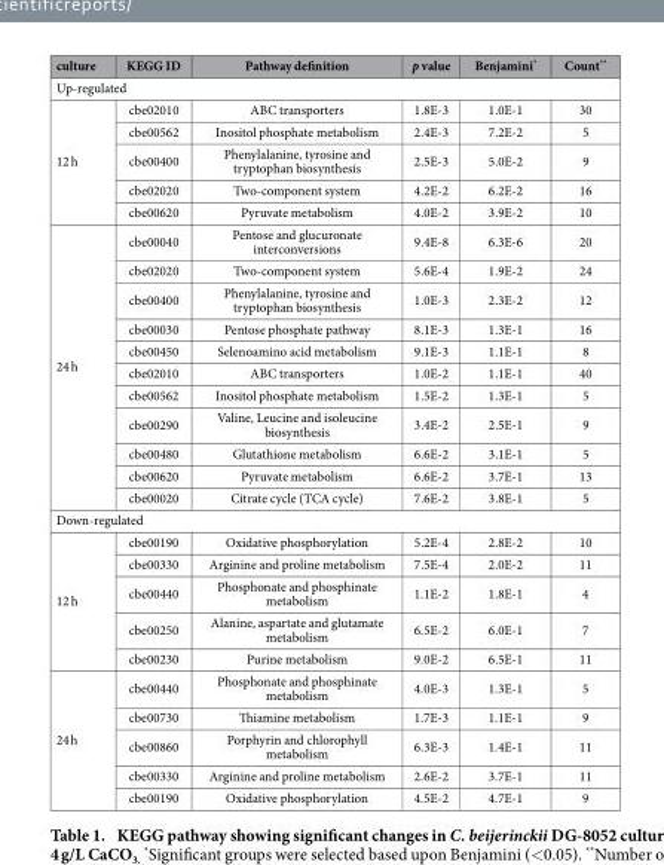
<table><thead><tr><td>culture</td><td>KEGG ID</td><td>Pathway definition</td><td>p value</td><td>Benjamini*</td><td>Count**</td></tr></thead><tbody><tr><td colspan="6">Up-regulated</td></tr><tr><td rowspan="5">12 h</td><td>cbe02010</td><td>ABC transporters</td><td>1.8E-3</td><td>1.0E-1</td><td>30</td></tr><tr><td>cbe00562</td><td>Inositol phosphate metabolism</td><td>2.4E-3</td><td>7.2E-2</td><td>5</td></tr><tr><td>cbe00400</td><td>Phenylalanine, tyrosine and tryptophan biosynthesis</td><td>2.5E-3</td><td>5.0E-2</td><td>9</td></tr><tr><td>cbe02020</td><td>Two-component system</td><td>4.2E-2</td><td>6.2E-2</td><td>16</td></tr><tr><td>cbe00620</td><td>Pyruvate metabolism</td><td>4.0E-2</td><td>3.9E-2</td><td>10</td></tr><tr><td rowspan="11">24 h</td><td>cbe00040</td><td>Pentose and glucuronate interconversions</td><td>9.4E-8</td><td>6.3E-6</td><td>20</td></tr><tr><td>cbe02020</td><td>Two-component system</td><td>5.6E-4</td><td>1.9E-2</td><td>24</td></tr><tr><td>cbe00400</td><td>Phenylalanine, tyrosine and tryptophan biosynthesis</td><td>1.0E-3</td><td>2.3E-2</td><td>12</td></tr><tr><td>cbe00030</td><td>Pentose phosphate pathway</td><td>8.1E-3</td><td>1.3E-1</td><td>16</td></tr><tr><td>cbe00450</td><td>Selenoamino acid metabolism</td><td>9.1E-3</td><td>1.1E-1</td><td>8</td></tr><tr><td>cbe02010</td><td>ABC transporters</td><td>1.0E-2</td><td>1.1E-1</td><td>40</td></tr><tr><td>cbe00562</td><td>Inositol phosphate metabolism</td><td>1.5E-2</td><td>1.3E-1</td><td>5</td></tr><tr><td>cbe00290</td><td>Valine, Leucine and isoleucine biosynthesis</td><td>3.4E-2</td><td>2.5E-1</td><td>9</td></tr><tr><td>cbe00480</td><td>Glutathione metabolism</td><td>6.6E-2</td><td>3.1E-1</td><td>5</td></tr><tr><td>cbe00620</td><td>Pyruvate metabolism</td><td>6.6E-2</td><td>3.7E-1</td><td>13</td></tr><tr><td>cbe00020</td><td>Citrate cycle (TCA cycle)</td><td>7.6E-2</td><td>3.8E-1</td><td>5</td></tr><tr><td colspan="6">Down-regulated</td></tr><tr><td rowspan="5">12 h</td><td>cbe00190</td><td>Oxidative phosphorylation</td><td>5.2E-4</td><td>2.8E-2</td><td>10</td></tr><tr><td>cbe00330</td><td>Arginine and proline metabolism</td><td>7.5E-4</td><td>2.0E-2</td><td>11</td></tr><tr><td>cbe00440</td><td>Phosphonate and phosphinate metabolism</td><td>1.1E-2</td><td>1.8E-1</td><td>4</td></tr><tr><td>cbe00250</td><td>Alanine, aspartate and glutamate metabolism</td><td>6.5E-2</td><td>6.0E-1</td><td>7</td></tr><tr><td>cbe00230</td><td>Purine metabolism</td><td>9.0E-2</td><td>6.5E-1</td><td>11</td></tr><tr><td rowspan="5">24 h</td><td>cbe00440</td><td>Phosphonate and phosphinate metabolism</td><td>4.0E-3</td><td>1.3E-1</td><td>5</td></tr><tr><td>cbe00730</td><td>Thiamine metabolism</td><td>1.7E-3</td><td>1.1E-1</td><td>9</td></tr><tr><td>cbe00860</td><td>Porphyrin and chlorophyll metabolism</td><td>6.3E-3</td><td>1.4E-1</td><td>11</td></tr><tr><td>cbe00330</td><td>Arginine and proline metabolism</td><td>2.6E-2</td><td>3.7E-1</td><td>11</td></tr><tr><td>cbe00190</td><td>Oxidative phosphorylation</td><td>4.5E-2</td><td>4.7E-1</td><td>9</td></tr></tbody></table>